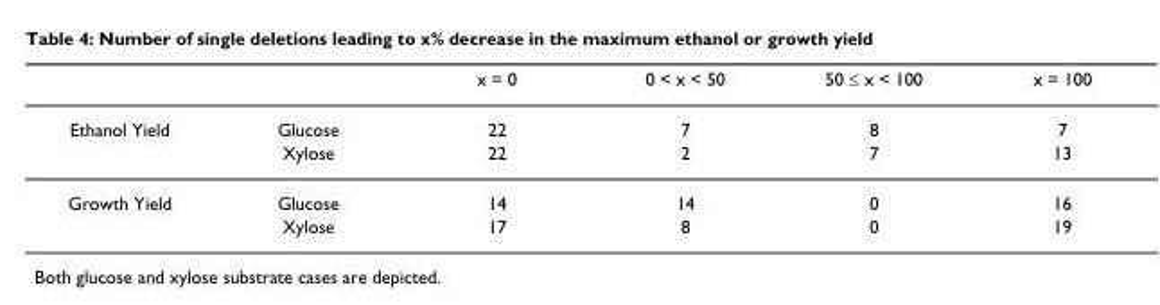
<table><thead><tr><td></td><td></td><td>x = 0</td><td>0 &lt; x &lt; 50</td><td>50 ≤ x &lt; 100</td><td>x = 100</td></tr></thead><tbody><tr><td rowspan="2">Ethanol Yield</td><td>Glucose</td><td>22</td><td>7</td><td>8</td><td>7</td></tr><tr><td>Xylose</td><td>22</td><td>2</td><td>7</td><td>13</td></tr><tr><td rowspan="2">Growth Yield</td><td>Glucose</td><td>14</td><td>14</td><td>0</td><td>16</td></tr><tr><td>Xylose</td><td>17</td><td>8</td><td>0</td><td>19</td></tr></tbody></table>